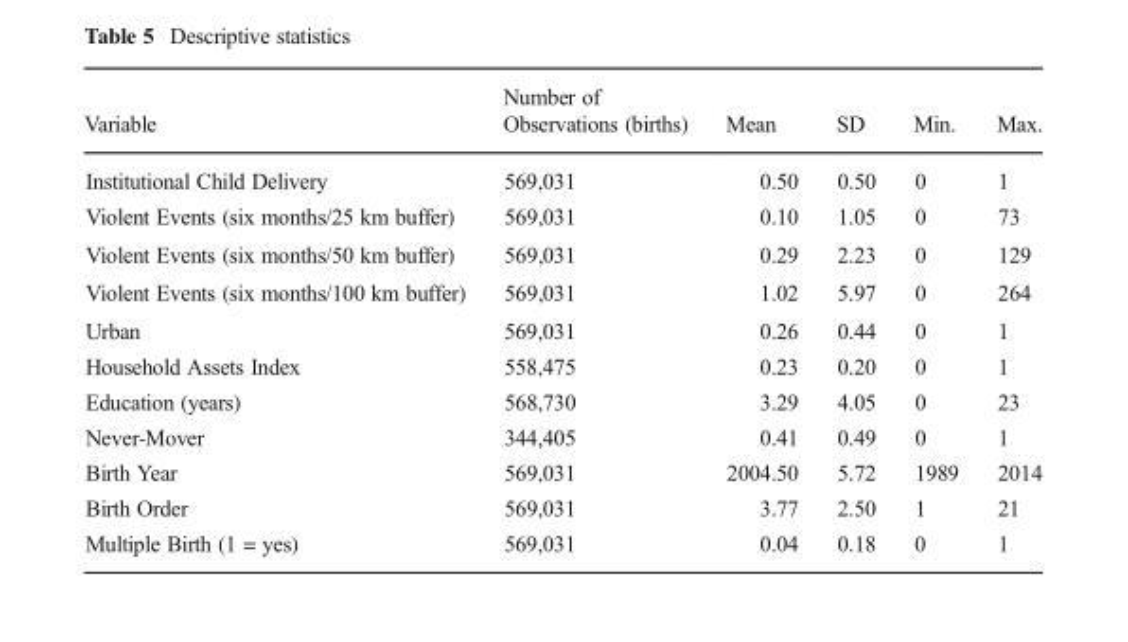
<table><thead><tr><td>Variable</td><td>Number of Observations (births)</td><td>Mean</td><td>SD</td><td>Min.</td><td>Max.</td></tr></thead><tbody><tr><td>Institutional Child Delivery</td><td>569,031</td><td>0.50</td><td>0.50</td><td>0</td><td>1</td></tr><tr><td>Violent Events (six months/25 km buffer)</td><td>569,031</td><td>0.10</td><td>1.05</td><td>0</td><td>73</td></tr><tr><td>Violent Events (six months/50 km buffer)</td><td>569,031</td><td>0.29</td><td>2.23</td><td>0</td><td>129</td></tr><tr><td>Violent Events (six months/100 km buffer)</td><td>569,031</td><td>1.02</td><td>5.97</td><td>0</td><td>264</td></tr><tr><td>Urban</td><td>569,031</td><td>0.26</td><td>0.44</td><td>0</td><td>1</td></tr><tr><td>Household Assets Index</td><td>558,475</td><td>0.23</td><td>0.20</td><td>0</td><td>1</td></tr><tr><td>Education (years)</td><td>568,730</td><td>3.29</td><td>4.05</td><td>0</td><td>23</td></tr><tr><td>Never-Mover</td><td>344,405</td><td>0.41</td><td>0.49</td><td>0</td><td>1</td></tr><tr><td>Birth Year</td><td>569,031</td><td>2004.50</td><td>5.72</td><td>1989</td><td>2014</td></tr><tr><td>Birth Order</td><td>569,031</td><td>3.77</td><td>2.50</td><td>1</td><td>21</td></tr><tr><td>Multiple Birth (1 = yes)</td><td>569,031</td><td>0.04</td><td>0.18</td><td>0</td><td>1</td></tr></tbody></table>